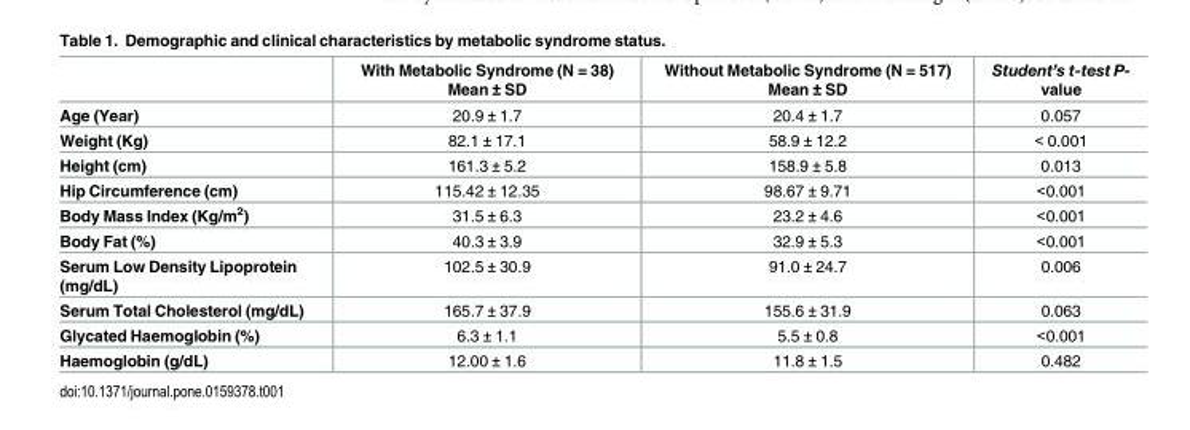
<table><thead><tr><td></td><td>With Metabolic Syndrome (N = 38) Mean ± SD</td><td>Without Metabolic Syndrome (N = 517) Mean ± SD</td><td>Student’s t-test P- value</td></tr></thead><tbody><tr><td>Age (Year)</td><td>20.9 ± 1.7</td><td>20.4 ± 1.7</td><td>0.057</td></tr><tr><td>Weight (Kg)</td><td>82.1 ± 17.1</td><td>58.9 ± 12.2</td><td>&lt; 0.001</td></tr><tr><td>Height (cm)</td><td>161.3 ± 5.2</td><td>158.9 ± 5.8</td><td>0.013</td></tr><tr><td>Hip Circumference (cm)</td><td>115.42 ± 12.35</td><td>98.67 ± 9.71</td><td>&lt;0.001</td></tr><tr><td>Body Mass Index (Kg/m<sup>2</sup>)</td><td>31.5 ± 6.3</td><td>23.2 ± 4.6</td><td>&lt;0.001</td></tr><tr><td>Body Fat (%)</td><td>40.3 ± 3.9</td><td>32.9 ± 5.3</td><td>&lt;0.001</td></tr><tr><td>Serum Low Density Lipoprotein (mg/dL)</td><td>102.5 ± 30.9</td><td>91.0 ± 24.7</td><td>0.006</td></tr><tr><td>Serum Total Cholesterol (mg/dL)</td><td>165.7 ± 37.9</td><td>155.6 ± 31.9</td><td>0.063</td></tr><tr><td>Glycated Haemoglobin (%)</td><td>6.3 ± 1.1</td><td>5.5 ± 0.8</td><td>&lt;0.001</td></tr><tr><td>Haemoglobin (g/dL)</td><td>12.00 ± 1.6</td><td>11.8 ± 1.5</td><td>0.482</td></tr></tbody></table>